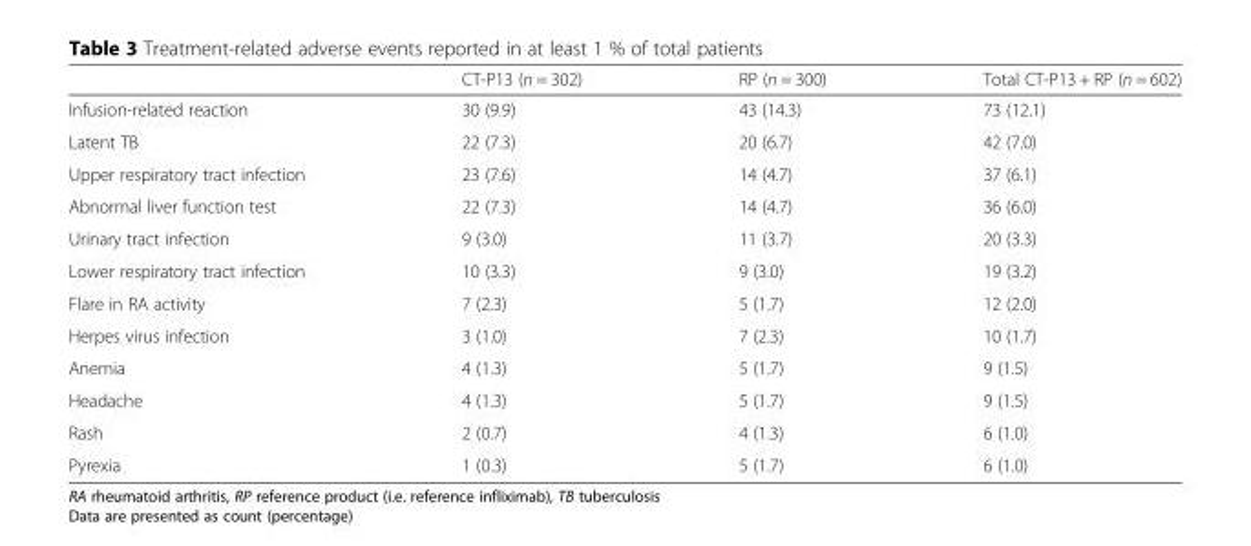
<table><thead><tr><td></td><td>CT-P13 (n = 302)</td><td>RP (n = 300)</td><td>Total CT-P13 + RP (n = 602)</td></tr></thead><tbody><tr><td>Infusion-related reaction</td><td>30 (9.9)</td><td>43 (14.3)</td><td>73 (12.1)</td></tr><tr><td>Latent TB</td><td>22 (7.3)</td><td>20 (6.7)</td><td>42 (7.0)</td></tr><tr><td>Upper respiratory tract infection</td><td>23 (7.6)</td><td>14 (4.7)</td><td>37 (6.1)</td></tr><tr><td>Abnormal liver function test</td><td>22 (7.3)</td><td>14 (4.7)</td><td>36 (6.0)</td></tr><tr><td>Urinary tract infection</td><td>9 (3.0)</td><td>11 (3.7)</td><td>20 (3.3)</td></tr><tr><td>Lower respiratory tract infection</td><td>10 (3.3)</td><td>9 (3.0)</td><td>19 (3.2)</td></tr><tr><td>Flare in RA activity</td><td>7 (2.3)</td><td>5 (1.7)</td><td>12 (2.0)</td></tr><tr><td>Herpes virus infection</td><td>3 (1.0)</td><td>7 (2.3)</td><td>10 (1.7)</td></tr><tr><td>Anemia</td><td>4 (1.3)</td><td>5 (1.7)</td><td>9 (1.5)</td></tr><tr><td>Headache</td><td>4 (1.3)</td><td>5 (1.7)</td><td>9 (1.5)</td></tr><tr><td>Rash</td><td>2 (0.7)</td><td>4 (1.3)</td><td>6 (1.0)</td></tr><tr><td>Pyrexia</td><td>1 (0.3)</td><td>5 (1.7)</td><td>6 (1.0)</td></tr></tbody></table>